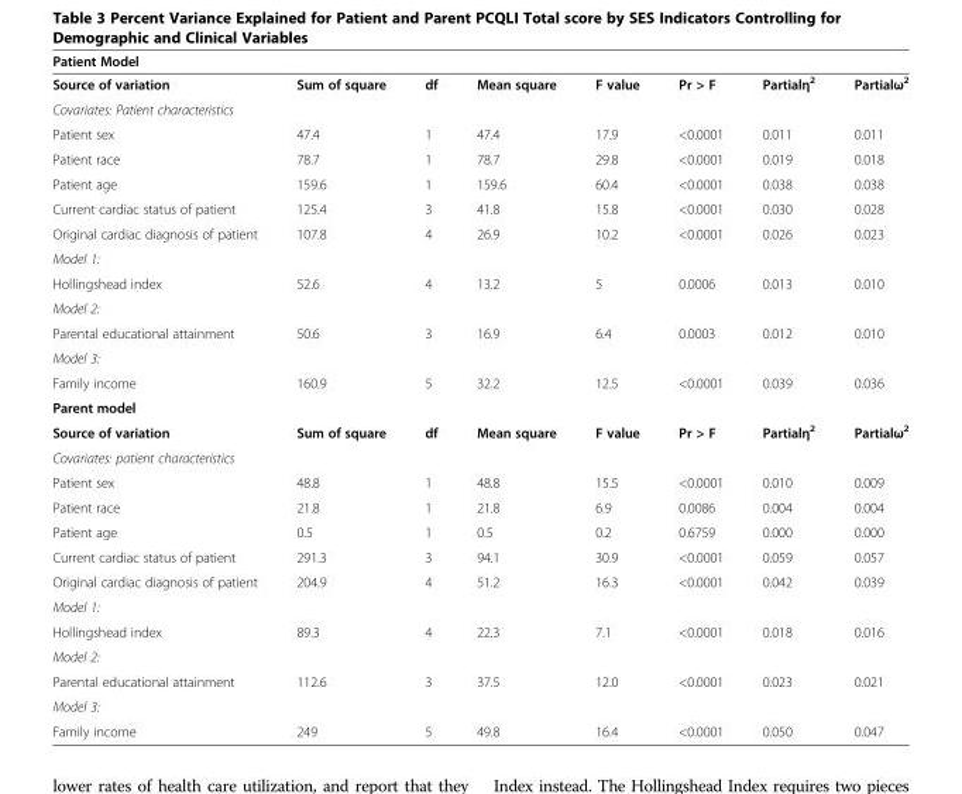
<table><thead><tr><td>Patient Model</td><td></td><td></td><td></td><td></td><td></td><td></td><td></td></tr></thead><tbody><tr><td>Source of variation</td><td>Sum of square</td><td>df</td><td>Mean square</td><td>F value</td><td>Pr &gt; F</td><td>Partialη<sup>2</sup></td><td>Partialω<sup>2</sup></td></tr><tr><td colspan="8">Covariates: Patient characteristics</td></tr><tr><td>Patient sex</td><td>47.4</td><td>1</td><td>47.4</td><td>17.9</td><td>&lt;0.0001</td><td>0.011</td><td>0.011</td></tr><tr><td>Patient race</td><td>78.7</td><td>1</td><td>78.7</td><td>29.8</td><td>&lt;0.0001</td><td>0.019</td><td>0.018</td></tr><tr><td>Patient age</td><td>159.6</td><td>1</td><td>159.6</td><td>60.4</td><td>&lt;0.0001</td><td>0.038</td><td>0.038</td></tr><tr><td>Current cardiac status of patient</td><td>125.4</td><td>3</td><td>41.8</td><td>15.8</td><td>&lt;0.0001</td><td>0.030</td><td>0.028</td></tr><tr><td>Original cardiac diagnosis of patient</td><td>107.8</td><td>4</td><td>26.9</td><td>10.2</td><td>&lt;0.0001</td><td>0.026</td><td>0.023</td></tr><tr><td colspan="8">Model 1:</td></tr><tr><td>Hollingshead index</td><td>52.6</td><td>4</td><td>13.2</td><td>5</td><td>0.0006</td><td>0.013</td><td>0.010</td></tr><tr><td colspan="8">Model 2:</td></tr><tr><td>Parental educational attainment</td><td>50.6</td><td>3</td><td>16.9</td><td>6.4</td><td>0.0003</td><td>0.012</td><td>0.010</td></tr><tr><td colspan="8">Model 3:</td></tr><tr><td>Family income</td><td>160.9</td><td>5</td><td>32.2</td><td>12.5</td><td>&lt;0.0001</td><td>0.039</td><td>0.036</td></tr><tr><td colspan="8">Parent model</td></tr><tr><td>Source of variation</td><td>Sum of square</td><td>df</td><td>Mean square</td><td>F value</td><td>Pr &gt; F</td><td>Partialη<sup>2</sup></td><td>Partialω<sup>2</sup></td></tr><tr><td colspan="8">Covariates: patient characteristics</td></tr><tr><td>Patient sex</td><td>48.8</td><td>1</td><td>48.8</td><td>15.5</td><td>&lt;0.0001</td><td>0.010</td><td>0.009</td></tr><tr><td>Patient race</td><td>21.8</td><td>1</td><td>21.8</td><td>6.9</td><td>0.0086</td><td>0.004</td><td>0.004</td></tr><tr><td>Patient age</td><td>0.5</td><td>1</td><td>0.5</td><td>0.2</td><td>0.6759</td><td>0.000</td><td>0.000</td></tr><tr><td>Current cardiac status of patient</td><td>291.3</td><td>3</td><td>94.1</td><td>30.9</td><td>&lt;0.0001</td><td>0.059</td><td>0.057</td></tr><tr><td>Original cardiac diagnosis of patient</td><td>204.9</td><td>4</td><td>51.2</td><td>16.3</td><td>&lt;0.0001</td><td>0.042</td><td>0.039</td></tr><tr><td colspan="8">Model 1:</td></tr><tr><td>Hollingshead index</td><td>89.3</td><td>4</td><td>22.3</td><td>7.1</td><td>&lt;0.0001</td><td>0.018</td><td>0.016</td></tr><tr><td colspan="8">Model 2:</td></tr><tr><td>Parental educational attainment</td><td>112.6</td><td>3</td><td>37.5</td><td>12.0</td><td>&lt;0.0001</td><td>0.023</td><td>0.021</td></tr><tr><td colspan="8">Model 3:</td></tr><tr><td>Family income</td><td>249</td><td>5</td><td>49.8</td><td>16.4</td><td>&lt;0.0001</td><td>0.050</td><td>0.047</td></tr></tbody></table>